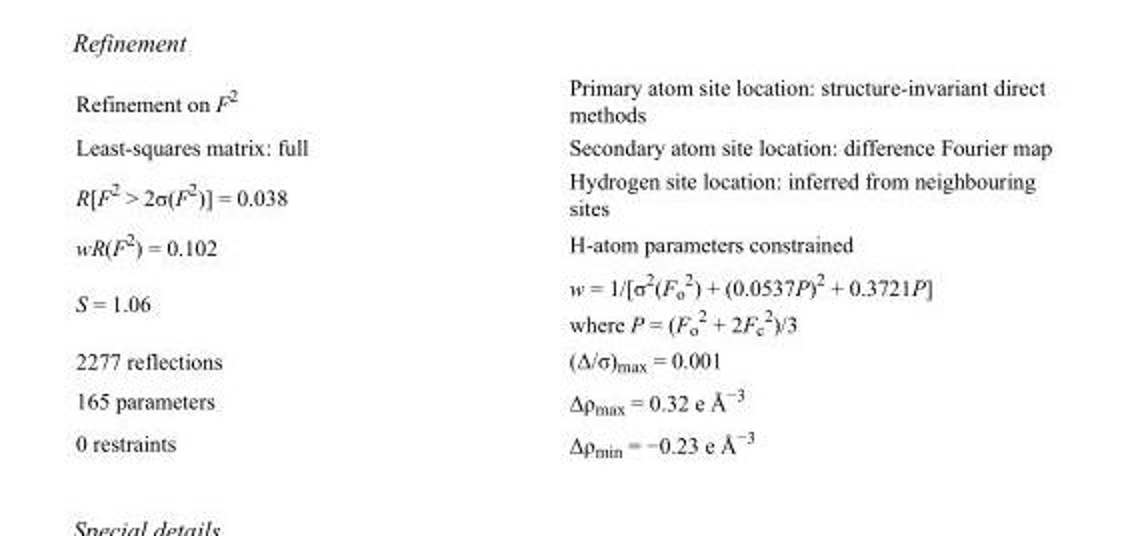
<table><tbody><tr><td>Refinement on F<sup>2</sup></td><td>Primary atom site location: structure-invariant direct methods</td></tr><tr><td>Least-squares matrix: full</td><td>Secondary atom site location: difference Fourier map</td></tr><tr><td>R[F<sup>2</sup> &gt; 2σ(F<sup>2</sup>)] = 0.038</td><td>Hydrogen site location: inferred from neighbouring sites</td></tr><tr><td>wR(F<sup>2</sup>) = 0.102</td><td>H-atom parameters constrained</td></tr><tr><td>S = 1.06</td><td>w = 1/[σ<sup>2</sup>(F<sub>o</sub> <sup>2</sup>) + (0.0537P)<sup>2</sup> + 0.3721P] where P = (F<sub>o</sub> <sup>2</sup> + 2F<sub>c</sub> <sup>2</sup>)/3</td></tr><tr><td>2277 reflections</td><td>(Δ/σ)<sub>max</sub> = 0.001</td></tr><tr><td>165 parameters</td><td>Δρ<sub>max</sub> = 0.32 e Å<sup>−3</sup></td></tr><tr><td>0 restraints</td><td>Δρ<sub>min</sub> = −0.23 e Å<sup>−3</sup></td></tr></tbody></table>